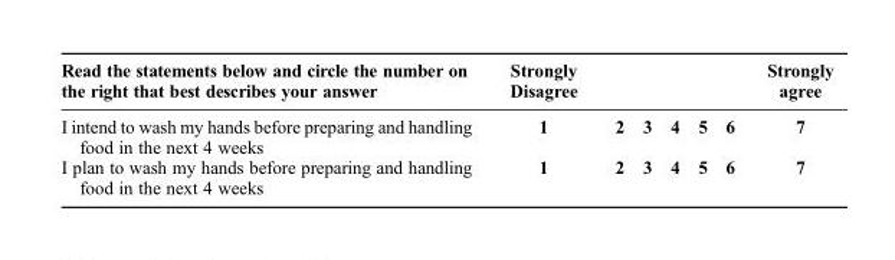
<table><thead><tr><td>Read the statements below and circle the number on the right that best describes your answer</td><td>Strongly Disagree</td><td></td><td></td><td></td><td></td><td></td><td>Strongly agree</td></tr></thead><tbody><tr><td>I intend to wash my hands before preparing and handling food in the next 4 weeks</td><td>1</td><td>2</td><td>3</td><td>4</td><td>5</td><td>6</td><td>7</td></tr><tr><td>I plan to wash my hands before preparing and handling food in the next 4 weeks</td><td>1</td><td>2</td><td>3</td><td>4</td><td>5</td><td>6</td><td>7</td></tr></tbody></table>